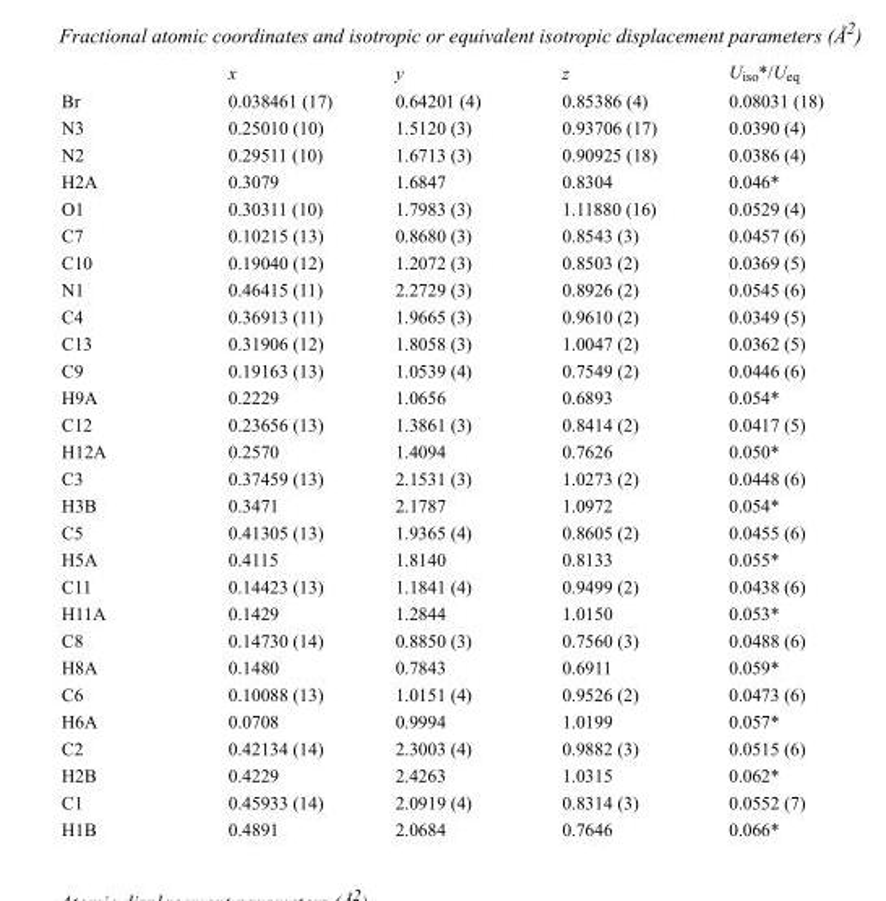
<table><thead><tr><td></td><td>x</td><td>y</td><td>z</td><td>U<sub>iso</sub>*/U<sub>eq</sub></td></tr></thead><tbody><tr><td>Br</td><td>0.038461 (17)</td><td>0.64201 (4)</td><td>0.85386 (4)</td><td>0.08031 (18)</td></tr><tr><td>N3</td><td>0.25010 (10)</td><td>1.5120 (3)</td><td>0.93706 (17)</td><td>0.0390 (4)</td></tr><tr><td>N2</td><td>0.29511 (10)</td><td>1.6713 (3)</td><td>0.90925 (18)</td><td>0.0386 (4)</td></tr><tr><td>H2A</td><td>0.3079</td><td>1.6847</td><td>0.8304</td><td>0.046*</td></tr><tr><td>O1</td><td>0.30311 (10)</td><td>1.7983 (3)</td><td>1.11880 (16)</td><td>0.0529 (4)</td></tr><tr><td>C7</td><td>0.10215 (13)</td><td>0.8680 (3)</td><td>0.8543 (3)</td><td>0.0457 (6)</td></tr><tr><td>C10</td><td>0.19040 (12)</td><td>1.2072 (3)</td><td>0.8503 (2)</td><td>0.0369 (5)</td></tr><tr><td>N1</td><td>0.46415 (11)</td><td>2.2729 (3)</td><td>0.8926 (2)</td><td>0.0545 (6)</td></tr><tr><td>C4</td><td>0.36913 (11)</td><td>1.9665 (3)</td><td>0.9610 (2)</td><td>0.0349 (5)</td></tr><tr><td>C13</td><td>0.31906 (12)</td><td>1.8058 (3)</td><td>1.0047 (2)</td><td>0.0362 (5)</td></tr><tr><td>C9</td><td>0.19163 (13)</td><td>1.0539 (4)</td><td>0.7549 (2)</td><td>0.0446 (6)</td></tr><tr><td>H9A</td><td>0.2229</td><td>1.0656</td><td>0.6893</td><td>0.054*</td></tr><tr><td>C12</td><td>0.23656 (13)</td><td>1.3861 (3)</td><td>0.8414 (2)</td><td>0.0417 (5)</td></tr><tr><td>H12A</td><td>0.2570</td><td>1.4094</td><td>0.7626</td><td>0.050*</td></tr><tr><td>C3</td><td>0.37459 (13)</td><td>2.1531 (3)</td><td>1.0273 (2)</td><td>0.0448 (6)</td></tr><tr><td>H3B</td><td>0.3471</td><td>2.1787</td><td>1.0972</td><td>0.054*</td></tr><tr><td>C5</td><td>0.41305 (13)</td><td>1.9365 (4)</td><td>0.8605 (2)</td><td>0.0455 (6)</td></tr><tr><td>H5A</td><td>0.4115</td><td>1.8140</td><td>0.8133</td><td>0.055*</td></tr><tr><td>C11</td><td>0.14423 (13)</td><td>1.1841 (4)</td><td>0.9499 (2)</td><td>0.0438 (6)</td></tr><tr><td>H11A</td><td>0.1429</td><td>1.2844</td><td>1.0150</td><td>0.053*</td></tr><tr><td>C8</td><td>0.14730 (14)</td><td>0.8850 (3)</td><td>0.7560 (3)</td><td>0.0488 (6)</td></tr><tr><td>H8A</td><td>0.1480</td><td>0.7843</td><td>0.6911</td><td>0.059*</td></tr><tr><td>C6</td><td>0.10088 (13)</td><td>1.0151 (4)</td><td>0.9526 (2)</td><td>0.0473 (6)</td></tr><tr><td>H6A</td><td>0.0708</td><td>0.9994</td><td>1.0199</td><td>0.057*</td></tr><tr><td>C2</td><td>0.42134 (14)</td><td>2.3003 (4)</td><td>0.9882 (3)</td><td>0.0515 (6)</td></tr><tr><td>H2B</td><td>0.4229</td><td>2.4263</td><td>1.0315</td><td>0.062*</td></tr><tr><td>C1</td><td>0.45933 (14)</td><td>2.0919 (4)</td><td>0.8314 (3)</td><td>0.0552 (7)</td></tr><tr><td>H1B</td><td>0.4891</td><td>2.0684</td><td>0.7646</td><td>0.066*</td></tr></tbody></table>